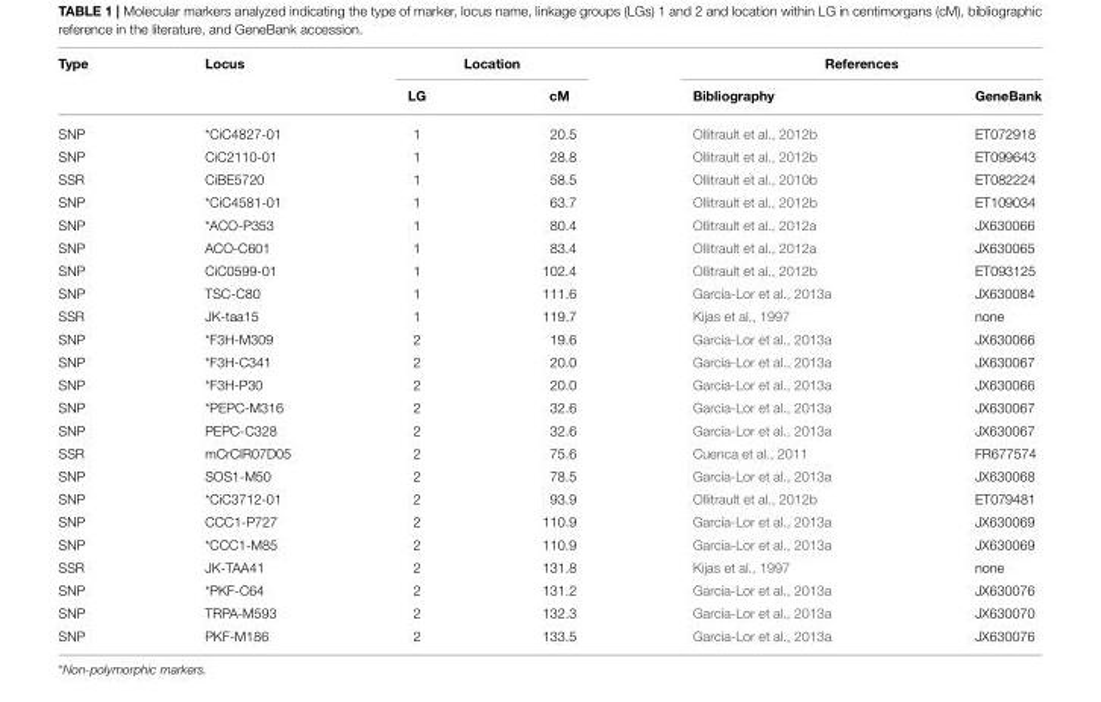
<table><thead><tr><td rowspan="2">Type</td><td rowspan="2">Locus</td><td colspan="2">Location</td><td colspan="2">References</td></tr><tr><td>LG</td><td>cM</td><td>Bibliography</td><td>GeneBank</td></tr></thead><tbody><tr><td>SNP</td><td>*CiC4827-01</td><td>1</td><td>20.5</td><td>Ollitrault et al., 2012b</td><td>ET072918</td></tr><tr><td>SNP</td><td>CiC2110-01</td><td>1</td><td>28.8</td><td>Ollitrault et al., 2012b</td><td>ET099643</td></tr><tr><td>SSR</td><td>CiBE5720</td><td>1</td><td>58.5</td><td>Ollitrault et al., 2010b</td><td>ET082224</td></tr><tr><td>SNP</td><td>*CiC4581-01</td><td>1</td><td>63.7</td><td>Ollitrault et al., 2012b</td><td>ET109034</td></tr><tr><td>SNP</td><td>*ACO-P353</td><td>1</td><td>80.4</td><td>Ollitrault et al., 2012a</td><td>JX630066</td></tr><tr><td>SNP</td><td>ACO-C601</td><td>1</td><td>83.4</td><td>Ollitrault et al., 2012a</td><td>JX630065</td></tr><tr><td>SNP</td><td>CiC0599-01</td><td>1</td><td>102.4</td><td>Ollitrault et al., 2012b</td><td>ET093125</td></tr><tr><td>SNP</td><td>TSC-C80</td><td>1</td><td>111.6</td><td>García-Lor et al., 2013a</td><td>JX630084</td></tr><tr><td>SSR</td><td>JK-taa15</td><td>1</td><td>119.7</td><td>Kijas et al., 1997</td><td>none</td></tr><tr><td>SNP</td><td>*F3H-M309</td><td>2</td><td>19.6</td><td>García-Lor et al., 2013a</td><td>JX630066</td></tr><tr><td>SNP</td><td>*F3H-C341</td><td>2</td><td>20.0</td><td>García-Lor et al., 2013a</td><td>JX630067</td></tr><tr><td>SNP</td><td>*F3H-P30</td><td>2</td><td>20.0</td><td>García-Lor et al., 2013a</td><td>JX630066</td></tr><tr><td>SNP</td><td>*PEPC-M316</td><td>2</td><td>32.6</td><td>García-Lor et al., 2013a</td><td>JX630067</td></tr><tr><td>SNP</td><td>PEPC-C328</td><td>2</td><td>32.6</td><td>García-Lor et al., 2013a</td><td>JX630067</td></tr><tr><td>SSR</td><td>mCrCIR07D05</td><td>2</td><td>75.6</td><td>Cuenca et al., 2011</td><td>FR677574</td></tr><tr><td>SNP</td><td>SOS1-M50</td><td>2</td><td>78.5</td><td>García-Lor et al., 2013a</td><td>JX630068</td></tr><tr><td>SNP</td><td>*CiC3712-01</td><td>2</td><td>93.9</td><td>Ollitrault et al., 2012b</td><td>ET079481</td></tr><tr><td>SNP</td><td>CCC1-P727</td><td>2</td><td>110.9</td><td>García-Lor et al., 2013a</td><td>JX630069</td></tr><tr><td>SNP</td><td>*CCC1-M85</td><td>2</td><td>110.9</td><td>García-Lor et al., 2013a</td><td>JX630069</td></tr><tr><td>SSR</td><td>JK-TAA41</td><td>2</td><td>131.8</td><td>Kijas et al., 1997</td><td>none</td></tr><tr><td>SNP</td><td>*PKF-C64</td><td>2</td><td>131.2</td><td>García-Lor et al., 2013a</td><td>JX630076</td></tr><tr><td>SNP</td><td>TRPA-M593</td><td>2</td><td>132.3</td><td>García-Lor et al., 2013a</td><td>JX630070</td></tr><tr><td>SNP</td><td>PKF-M186</td><td>2</td><td>133.5</td><td>García-Lor et al., 2013a</td><td>JX630076</td></tr></tbody></table>